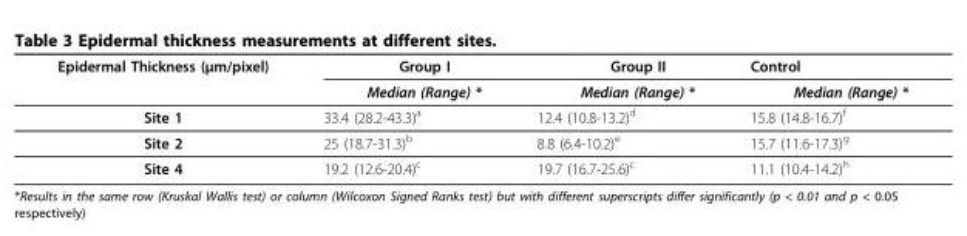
<table><thead><tr><td rowspan="2">Epidermal Thickness (μm/pixel)</td><td rowspan="2">Group I Median (Range) *</td><td rowspan="2">Group II Median (Range) *</td><td rowspan="2">Control Median (Range) *</td></tr><tr></tr></thead><tbody><tr><td>Site 1</td><td>33.4 (28.2-43.3)<sup>a</sup></td><td>12.4 (10.8-13.2)<sup>d</sup></td><td>15.8 (14.8-16.7)<sup>f</sup></td></tr><tr><td>Site 2</td><td>25 (18.7-31.3)<sup>b</sup></td><td>8.8 (6.4-10.2)<sup>e</sup></td><td>15.7 (11.6-17.3)<sup>g</sup></td></tr><tr><td>Site 4</td><td>19.2 (12.6-20.4)<sup>c</sup></td><td>19.7 (16.7-25.6)<sup>c</sup></td><td>11.1 (10.4-14.2)<sup>h</sup></td></tr></tbody></table>